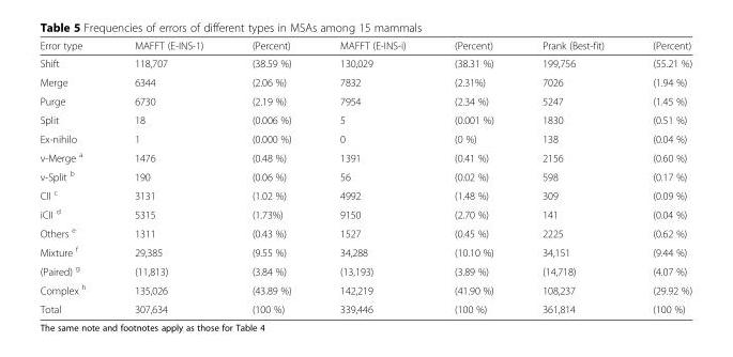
<table><thead><tr><td>Error type</td><td>MAFFT (E-INS-1)</td><td>(Percent)</td><td>MAFFT (E-INS-i)</td><td>(Percent)</td><td>Prank (Best-fit)</td><td>(Percent)</td></tr></thead><tbody><tr><td>Shift</td><td>118,707</td><td>(38.59 %)</td><td>130,029</td><td>(38.31 %)</td><td>199,756</td><td>(55.21 %)</td></tr><tr><td>Merge</td><td>6344</td><td>(2.06 %)</td><td>7832</td><td>(2.31%)</td><td>7026</td><td>(1.94 %)</td></tr><tr><td>Purge</td><td>6730</td><td>(2.19 %)</td><td>7954</td><td>(2.34 %)</td><td>5247</td><td>(1.45 %)</td></tr><tr><td>Split</td><td>18</td><td>(0.006 %)</td><td>5</td><td>(0.001 %)</td><td>1830</td><td>(0.51 %)</td></tr><tr><td>Ex-nihilo</td><td>1</td><td>(0.000 %)</td><td>0</td><td>(0 %)</td><td>138</td><td>(0.04 %)</td></tr><tr><td>v-Merge <sup>a</sup></td><td>1476</td><td>(0.48 %)</td><td>1391</td><td>(0.41 %)</td><td>2156</td><td>(0.60 %)</td></tr><tr><td>v-Split <sup>b</sup></td><td>190</td><td>(0.06 %)</td><td>56</td><td>(0.02 %)</td><td>598</td><td>(0.17 %)</td></tr><tr><td>CII <sup>c</sup></td><td>3131</td><td>(1.02 %)</td><td>4992</td><td>(1.48 %)</td><td>309</td><td>(0.09 %)</td></tr><tr><td>iCII <sup>d</sup></td><td>5315</td><td>(1.73%)</td><td>9150</td><td>(2.70 %)</td><td>141</td><td>(0.04 %)</td></tr><tr><td>Others <sup>e</sup></td><td>1311</td><td>(0.43 %)</td><td>1527</td><td>(0.45 %)</td><td>2225</td><td>(0.62 %)</td></tr><tr><td>Mixture <sup>f</sup></td><td>29,385</td><td>(9.55 %)</td><td>34,288</td><td>(10.10 %)</td><td>34,151</td><td>(9.44 %)</td></tr><tr><td>(Paired) <sup>g</sup></td><td>(11,813)</td><td>(3.84 %)</td><td>(13,193)</td><td>(3.89 %)</td><td>(14,718)</td><td>(4.07 %)</td></tr><tr><td>Complex <sup>h</sup></td><td>135,026</td><td>(43.89 %)</td><td>142,219</td><td>(41.90 %)</td><td>108,237</td><td>(29.92 %)</td></tr><tr><td>Total</td><td>307,634</td><td>(100 %)</td><td>339,446</td><td>(100 %)</td><td>361,814</td><td>(100 %)</td></tr></tbody></table>